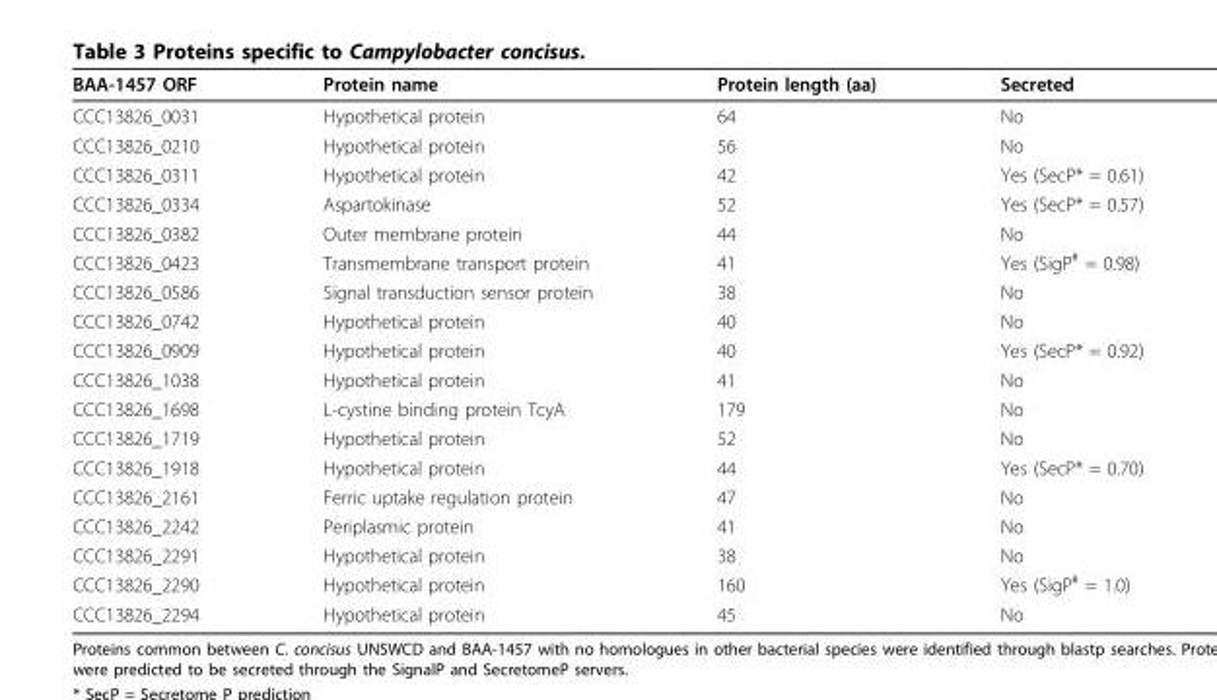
<table><thead><tr><td>BAA-1457 ORF</td><td>Protein name</td><td>Protein length (aa)</td><td>Secreted</td></tr></thead><tbody><tr><td>CCC13826_0031</td><td>Hypothetical protein</td><td>64</td><td>No</td></tr><tr><td>CCC13826_0210</td><td>Hypothetical protein</td><td>56</td><td>No</td></tr><tr><td>CCC13826_0311</td><td>Hypothetical protein</td><td>42</td><td>Yes (SecP* = 0.61)</td></tr><tr><td>CCC13826_0334</td><td>Aspartokinase</td><td>52</td><td>Yes (SecP* = 0.57)</td></tr><tr><td>CCC13826_0382</td><td>Outer membrane protein</td><td>44</td><td>No</td></tr><tr><td>CCC13826_0423</td><td>Transmembrane transport protein</td><td>41</td><td>Yes (SigP<sup>#</sup> = 0.98)</td></tr><tr><td>CCC13826_0586</td><td>Signal transduction sensor protein</td><td>38</td><td>No</td></tr><tr><td>CCC13826_0742</td><td>Hypothetical protein</td><td>40</td><td>No</td></tr><tr><td>CCC13826_0909</td><td>Hypothetical protein</td><td>40</td><td>Yes (SecP* = 0.92)</td></tr><tr><td>CCC13826_1038</td><td>Hypothetical protein</td><td>41</td><td>No</td></tr><tr><td>CCC13826_1698</td><td>L-cystine binding protein TcyA</td><td>179</td><td>No</td></tr><tr><td>CCC13826_1719</td><td>Hypothetical protein</td><td>52</td><td>No</td></tr><tr><td>CCC13826_1918</td><td>Hypothetical protein</td><td>44</td><td>Yes (SecP* = 0.70)</td></tr><tr><td>CCC13826_2161</td><td>Ferric uptake regulation protein</td><td>47</td><td>No</td></tr><tr><td>CCC13826_2242</td><td>Periplasmic protein</td><td>41</td><td>No</td></tr><tr><td>CCC13826_2291</td><td>Hypothetical protein</td><td>38</td><td>No</td></tr><tr><td>CCC13826_2290</td><td>Hypothetical protein</td><td>160</td><td>Yes (SigP<sup>#</sup> = 1.0)</td></tr><tr><td>CCC13826_2294</td><td>Hypothetical protein</td><td>45</td><td>No</td></tr></tbody></table>